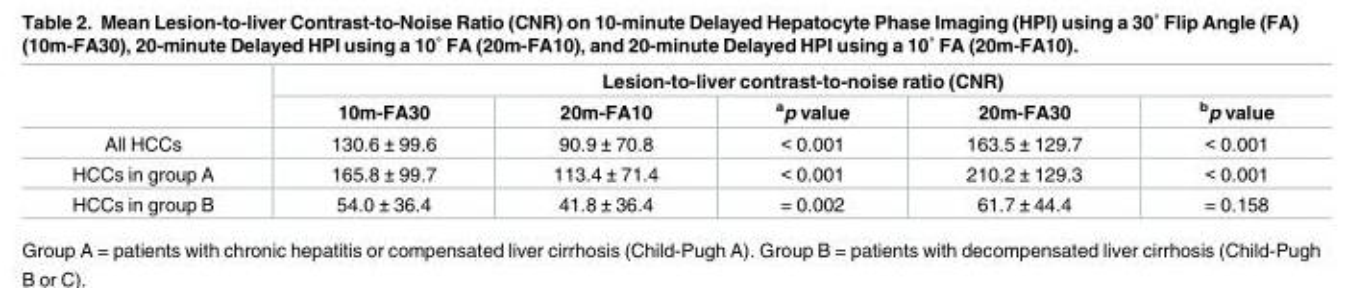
<table><thead><tr><td rowspan="2"></td><td colspan="5">Lesion-to-liver contrast-to-noise ratio (CNR)</td></tr><tr><td>10m-FA30</td><td>20m-FA10</td><td><sup>a</sup>p value</td><td>20m-FA30</td><td><sup>b</sup>p value</td></tr></thead><tbody><tr><td>All HCCs</td><td>130.6 ± 99.6</td><td>90.9 ± 70.8</td><td>&lt; 0.001</td><td>163.5 ± 129.7</td><td>&lt; 0.001</td></tr><tr><td>HCCs in group A</td><td>165.8 ± 99.7</td><td>113.4 ± 71.4</td><td>&lt; 0.001</td><td>210.2 ± 129.3</td><td>&lt; 0.001</td></tr><tr><td>HCCs in group B</td><td>54.0 ± 36.4</td><td>41.8 ± 36.4</td><td>= 0.002</td><td>61.7 ± 44.4</td><td>= 0.158</td></tr></tbody></table>